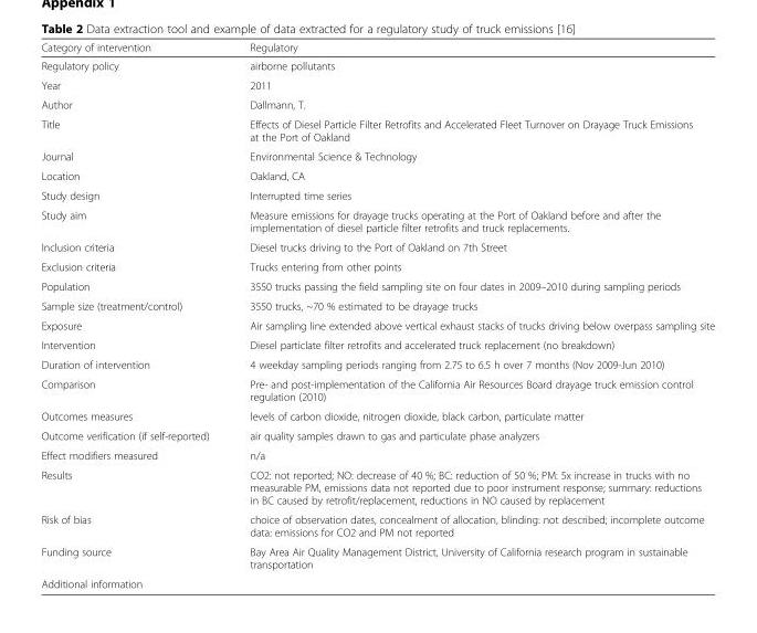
<table><thead><tr><td>Category of intervention</td><td>Regulatory</td></tr></thead><tbody><tr><td>Regulatory policy</td><td>airborne pollutants</td></tr><tr><td>Year</td><td>2011</td></tr><tr><td>Author</td><td>Dallmann, T.</td></tr><tr><td>Title</td><td>Effects of Diesel Particle Filter Retrofits and Accelerated Fleet Turnover on Drayage Truck Emissions at the Port of Oakland</td></tr><tr><td>Journal</td><td>Environmental Science &amp; Technology</td></tr><tr><td>Location</td><td>Oakland, CA</td></tr><tr><td>Study design</td><td>Interrupted time series</td></tr><tr><td>Study aim</td><td>Measure emissions for drayage trucks operating at the Port of Oakland before and after the implementation of diesel particle filter retrofits and truck replacements.</td></tr><tr><td>Inclusion criteria</td><td>Diesel trucks driving to the Port of Oakland on 7th Street</td></tr><tr><td>Exclusion criteria</td><td>Trucks entering from other points</td></tr><tr><td>Population</td><td>3550 trucks passing the field sampling site on four dates in 2009–2010 during sampling periods</td></tr><tr><td>Sample size (treatment/control)</td><td>3550 trucks, ~70 % estimated to be drayage trucks</td></tr><tr><td>Exposure</td><td>Air sampling line extended above vertical exhaust stacks of trucks driving below overpass sampling site</td></tr><tr><td>Intervention</td><td>Diesel particlate filter retrofits and accelerated truck replacement (no breakdown)</td></tr><tr><td>Duration of intervention</td><td>4 weekday sampling periods ranging from 2.75 to 6.5 h over 7 months (Nov 2009-Jun 2010)</td></tr><tr><td>Comparison</td><td>Pre- and post-implementation of the California Air Resources Board drayage truck emission control regulation (2010)</td></tr><tr><td>Outcomes measures</td><td>levels of carbon dioxide, nitrogen dioxide, black carbon, particulate matter</td></tr><tr><td>Outcome verification (if self-reported)</td><td>air quality samples drawn to gas and particulate phase analyzers</td></tr><tr><td>Effect modifiers measured</td><td>n/a</td></tr><tr><td>Results</td><td>CO2: not reported; NO: decrease of 40 %; BC: reduction of 50 %; PM: 5x increase in trucks with no measurable PM, emissions data not reported due to poor instrument response; summary: reductions in BC caused by retrofit/replacement, reductions in NO caused by replacement</td></tr><tr><td>Risk of bias</td><td>choice of observation dates, concealment of allocation, blinding: not described; incomplete outcome data: emissions for CO2 and PM not reported</td></tr><tr><td>Funding source</td><td>Bay Area Air Quality Management District, University of California research program in sustainable transportation</td></tr><tr><td>Additional information</td><td></td></tr></tbody></table>